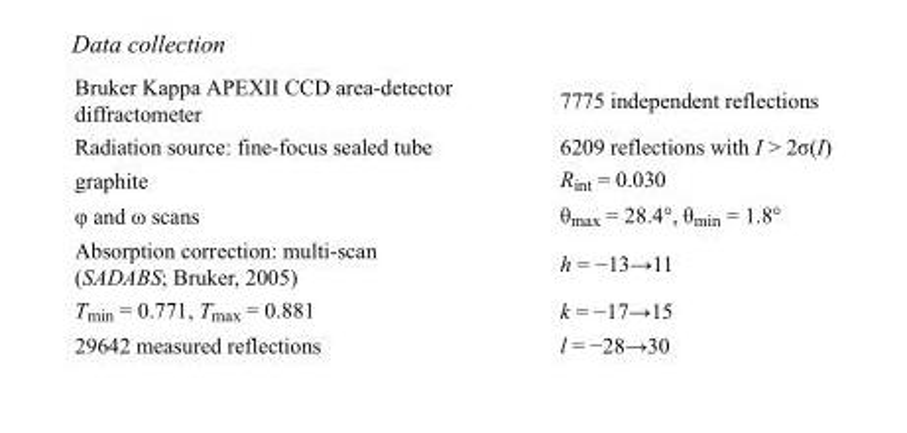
<table><tbody><tr><td>Bruker Kappa APEXII CCD area-detector diffractometer</td><td>7775 independent reflections</td></tr><tr><td>Radiation source: fine-focus sealed tube</td><td>6209 reflections with I &gt; 2σ(I)</td></tr><tr><td>graphite</td><td>R<sub>int</sub> = 0.030</td></tr><tr><td>φ and ω scans</td><td>θ<sub>max</sub> = 28.4°, θ<sub>min</sub> = 1.8°</td></tr><tr><td>Absorption correction: multi-scan (SADABS; Bruker, 2005)</td><td>h = −13→11</td></tr><tr><td>T<sub>min</sub> = 0.771, T<sub>max</sub> = 0.881</td><td>k = −17→15</td></tr><tr><td>29642 measured reflections</td><td>l = −28→30</td></tr></tbody></table>